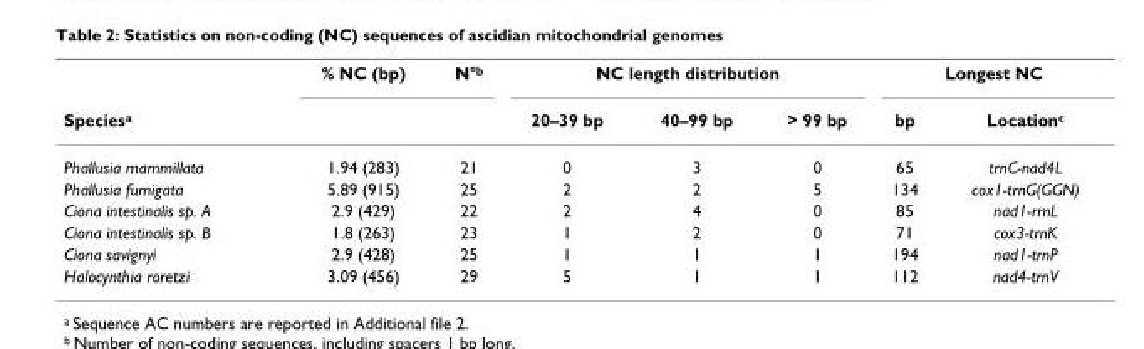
<table><thead><tr><td rowspan="2">Species<sup>a</sup></td><td rowspan="2">% NC (bp)</td><td rowspan="2">N°<sup>b</sup></td><td colspan="3">NC length distribution</td><td colspan="2">Longest NC</td></tr><tr><td>20–39 bp</td><td>40–99 bp</td><td>&gt; 99 bp</td><td>bp</td><td>Location<sup>c</sup></td></tr></thead><tbody><tr><td>Phallusia mammillata</td><td>1.94 (283)</td><td>21</td><td>0</td><td>3</td><td>0</td><td>65</td><td>trnC-nad4L</td></tr><tr><td>Phallusia fumigata</td><td>5.89 (915)</td><td>25</td><td>2</td><td>2</td><td>5</td><td>134</td><td>cox1-trnG(GGN)</td></tr><tr><td>Ciona intestinalis sp. A</td><td>2.9 (429)</td><td>22</td><td>2</td><td>4</td><td>0</td><td>85</td><td>nad1-rrnL</td></tr><tr><td>Ciona intestinalis sp. B</td><td>1.8 (263)</td><td>23</td><td>1</td><td>2</td><td>0</td><td>71</td><td>cox3-trnK</td></tr><tr><td>Ciona savignyi</td><td>2.9 (428)</td><td>25</td><td>1</td><td>1</td><td>1</td><td>194</td><td>nad1-trnP</td></tr><tr><td>Halocynthia roretzi</td><td>3.09 (456)</td><td>29</td><td>5</td><td>1</td><td>1</td><td>112</td><td>nad4-trnV</td></tr></tbody></table>